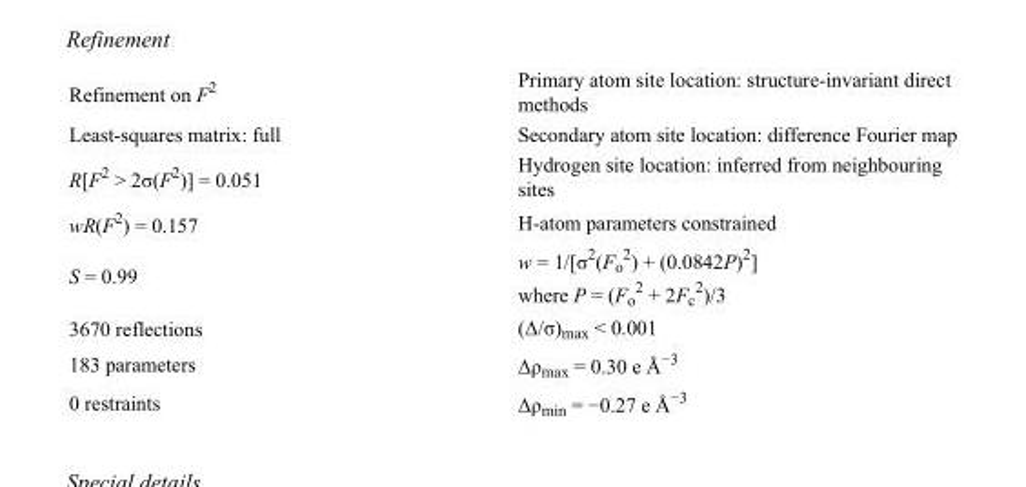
<table><tbody><tr><td>Refinement on F<sup>2</sup></td><td>Primary atom site location: structure-invariant direct methods</td></tr><tr><td>Least-squares matrix: full</td><td>Secondary atom site location: difference Fourier map</td></tr><tr><td>R[F<sup>2</sup> &gt; 2σ(F<sup>2</sup>)] = 0.051</td><td>Hydrogen site location: inferred from neighbouring sites</td></tr><tr><td>wR(F<sup>2</sup>) = 0.157</td><td>H-atom parameters constrained</td></tr><tr><td>S = 0.99</td><td>w = 1/[σ<sup>2</sup>(F<sub>o</sub> <sup>2</sup>) + (0.0842P)<sup>2</sup>] where P = (F<sub>o</sub> <sup>2</sup> + 2F<sub>c</sub> <sup>2</sup>)/3</td></tr><tr><td>3670 reflections</td><td>(Δ/σ)<sub>max</sub> &lt; 0.001</td></tr><tr><td>183 parameters</td><td>Δρ<sub>max</sub> = 0.30 e Å<sup>−3</sup></td></tr><tr><td>0 restraints</td><td>Δρ<sub>min</sub> = −0.27 e Å<sup>−3</sup></td></tr></tbody></table>